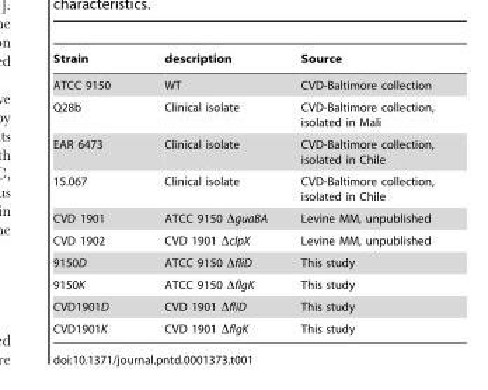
<table><thead><tr><td>Strain</td><td>description</td><td>Source</td></tr></thead><tbody><tr><td>ATCC 9150</td><td>WT</td><td>CVD-Baltimore collection</td></tr><tr><td>Q28b</td><td>Clinical isolate</td><td>CVD-Baltimore collection, isolated in Mali</td></tr><tr><td>EAR 6473</td><td>Clinical isolate</td><td>CVD-Baltimore collection, isolated in Chile</td></tr><tr><td>15.067</td><td>Clinical isolate</td><td>CVD-Baltimore collection, isolated in Chile</td></tr><tr><td>CVD 1901</td><td>ATCC 9150 ΔguaBA</td><td>Levine MM, unpublished</td></tr><tr><td>CVD 1902</td><td>CVD 1901 ΔclpX</td><td>Levine MM, unpublished</td></tr><tr><td>9150D</td><td>ATCC 9150 ΔfliD</td><td>This study</td></tr><tr><td>9150K</td><td>ATCC 9150 ΔflgK</td><td>This study</td></tr><tr><td>CVD1901D</td><td>CVD 1901 ΔfliD</td><td>This study</td></tr><tr><td>CVD1901K</td><td>CVD 1901 ΔflgK</td><td>This study</td></tr></tbody></table>